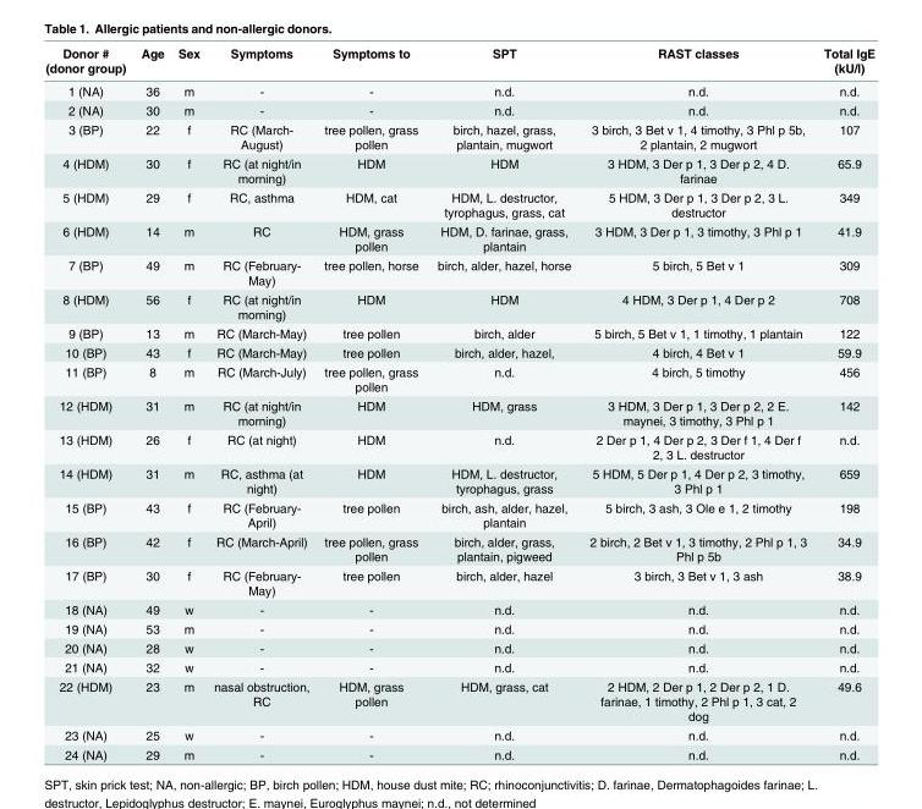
<table><thead><tr><td>Donor # (donor group)</td><td>Age</td><td>Sex</td><td>Symptoms</td><td>Symptoms to</td><td>SPT</td><td>RAST classes</td><td>Total IgE (kU/l)</td></tr></thead><tbody><tr><td>1 (NA)</td><td>36</td><td>m</td><td>-</td><td>-</td><td>n.d.</td><td>n.d.</td><td>n.d.</td></tr><tr><td>2 (NA)</td><td>30</td><td>m</td><td>-</td><td>-</td><td>n.d.</td><td>n.d.</td><td>n.d.</td></tr><tr><td>3 (BP)</td><td>22</td><td>f</td><td>RC (March- August)</td><td>tree pollen, grass pollen</td><td>birch, hazel, grass, plantain, mugwort</td><td>3 birch, 3 Bet v 1, 4 timothy, 3 Phl p 5b, 2 plantain, 2 mugwort</td><td>107</td></tr><tr><td>4 (HDM)</td><td>30</td><td>f</td><td>RC (at night/in morning)</td><td>HDM</td><td>HDM</td><td>3 HDM, 3 Der p 1, 3 Der p 2, 4 D. farinae</td><td>65.9</td></tr><tr><td>5 (HDM)</td><td>29</td><td>f</td><td>RC, asthma</td><td>HDM, cat</td><td>HDM, L. destructor, tyrophagus, grass, cat</td><td>5 HDM, 3 Der p 1, 3 Der p 2, 3 L. destructor</td><td>349</td></tr><tr><td>6 (HDM)</td><td>14</td><td>m</td><td>RC</td><td>HDM, grass pollen</td><td>HDM, D. farinae, grass, plantain</td><td>3 HDM, 3 Der p 1, 3 timothy, 3 Phl p 1</td><td>41.9</td></tr><tr><td>7 (BP)</td><td>49</td><td>m</td><td>RC (February- May)</td><td>tree pollen, horse</td><td>birch, alder, hazel, horse</td><td>5 birch, 5 Bet v 1</td><td>309</td></tr><tr><td>8 (HDM)</td><td>56</td><td>f</td><td>RC (at night/in morning)</td><td>HDM</td><td>HDM</td><td>4 HDM, 3 Der p 1, 4 Der p 2</td><td>708</td></tr><tr><td>9 (BP)</td><td>13</td><td>m</td><td>RC (March-May)</td><td>tree pollen</td><td>birch, alder</td><td>5 birch, 5 Bet v 1, 1 timothy, 1 plantain</td><td>122</td></tr><tr><td>10 (BP)</td><td>43</td><td>f</td><td>RC (March-May)</td><td>tree pollen</td><td>birch, alder, hazel,</td><td>4 birch, 4 Bet v 1</td><td>59.9</td></tr><tr><td>11 (BP)</td><td>8</td><td>m</td><td>RC (March-July)</td><td>tree pollen, grass pollen</td><td>n.d.</td><td>4 birch, 5 timothy</td><td>456</td></tr><tr><td>12 (HDM)</td><td>31</td><td>m</td><td>RC (at night/in morning)</td><td>HDM</td><td>HDM, grass</td><td>3 HDM, 3 Der p 1, 3 Der p 2, 2 E. maynei, 3 timothy, 3 Phl p 1</td><td>142</td></tr><tr><td>13 (HDM)</td><td>26</td><td>f</td><td>RC (at night)</td><td>HDM</td><td>n.d.</td><td>2 Der p 1, 4 Der p 2, 3 Der f 1, 4 Der f 2, 3 L. destructor</td><td>n.d.</td></tr><tr><td>14 (HDM)</td><td>31</td><td>m</td><td>RC, asthma (at night)</td><td>HDM</td><td>HDM, L. destructor, tyrophagus, grass</td><td>5 HDM, 5 Der p 1, 4 Der p 2, 3 timothy, 3 Phl p 1</td><td>659</td></tr><tr><td>15 (BP)</td><td>43</td><td>f</td><td>RC (February- April)</td><td>tree pollen</td><td>birch, ash, alder, hazel, plantain</td><td>5 birch, 3 ash, 3 Ole e 1, 2 timothy</td><td>198</td></tr><tr><td>16 (BP)</td><td>42</td><td>f</td><td>RC (March-April)</td><td>tree pollen, grass pollen</td><td>birch, alder, grass, plantain, pigweed</td><td>2 birch, 2 Bet v 1, 3 timothy, 2 Phl p 1, 3 Phl p 5b</td><td>34.9</td></tr><tr><td>17 (BP)</td><td>30</td><td>f</td><td>RC (February- May)</td><td>tree pollen</td><td>birch, alder, hazel</td><td>3 birch, 3 Bet v 1, 3 ash</td><td>38.9</td></tr><tr><td>18 (NA)</td><td>49</td><td>w</td><td>-</td><td>-</td><td>n.d.</td><td>n.d.</td><td>n.d.</td></tr><tr><td>19 (NA)</td><td>53</td><td>m</td><td>-</td><td>-</td><td>n.d.</td><td>n.d.</td><td>n.d.</td></tr><tr><td>20 (NA)</td><td>28</td><td>w</td><td>-</td><td>-</td><td>n.d.</td><td>n.d.</td><td>n.d.</td></tr><tr><td>21 (NA)</td><td>32</td><td>w</td><td>-</td><td>-</td><td>n.d.</td><td>n.d.</td><td>n.d.</td></tr><tr><td>22 (HDM)</td><td>23</td><td>m</td><td>nasal obstruction, RC</td><td>HDM, grass pollen</td><td>HDM, grass, cat</td><td>2 HDM, 2 Der p 1, 2 Der p 2, 1 D. farinae, 1 timothy, 2 Phl p 1, 3 cat, 2 dog</td><td>49.6</td></tr><tr><td>23 (NA)</td><td>25</td><td>w</td><td>-</td><td>-</td><td>n.d.</td><td>n.d.</td><td>n.d.</td></tr><tr><td>24 (NA)</td><td>29</td><td>m</td><td>-</td><td>-</td><td>n.d.</td><td>n.d.</td><td>n.d.</td></tr></tbody></table>